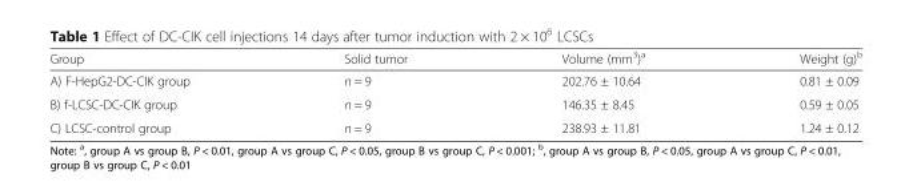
<table><thead><tr><td>Group</td><td>Solid tumor</td><td>Volume (mm<sup>3</sup>)<sup>a</sup></td><td>Weight (g)<sup>b</sup></td></tr></thead><tbody><tr><td>A) F-HepG2-DC-CIK group</td><td>n = 9</td><td>202.76 ± 10.64</td><td>0.81 ± 0.09</td></tr><tr><td>B) f-LCSC-DC-CIK group</td><td>n = 9</td><td>146.35 ± 8.45</td><td>0.59 ± 0.05</td></tr><tr><td>C) LCSC-control group</td><td>n = 9</td><td>238.93 ± 11.81</td><td>1.24 ± 0.12</td></tr></tbody></table>